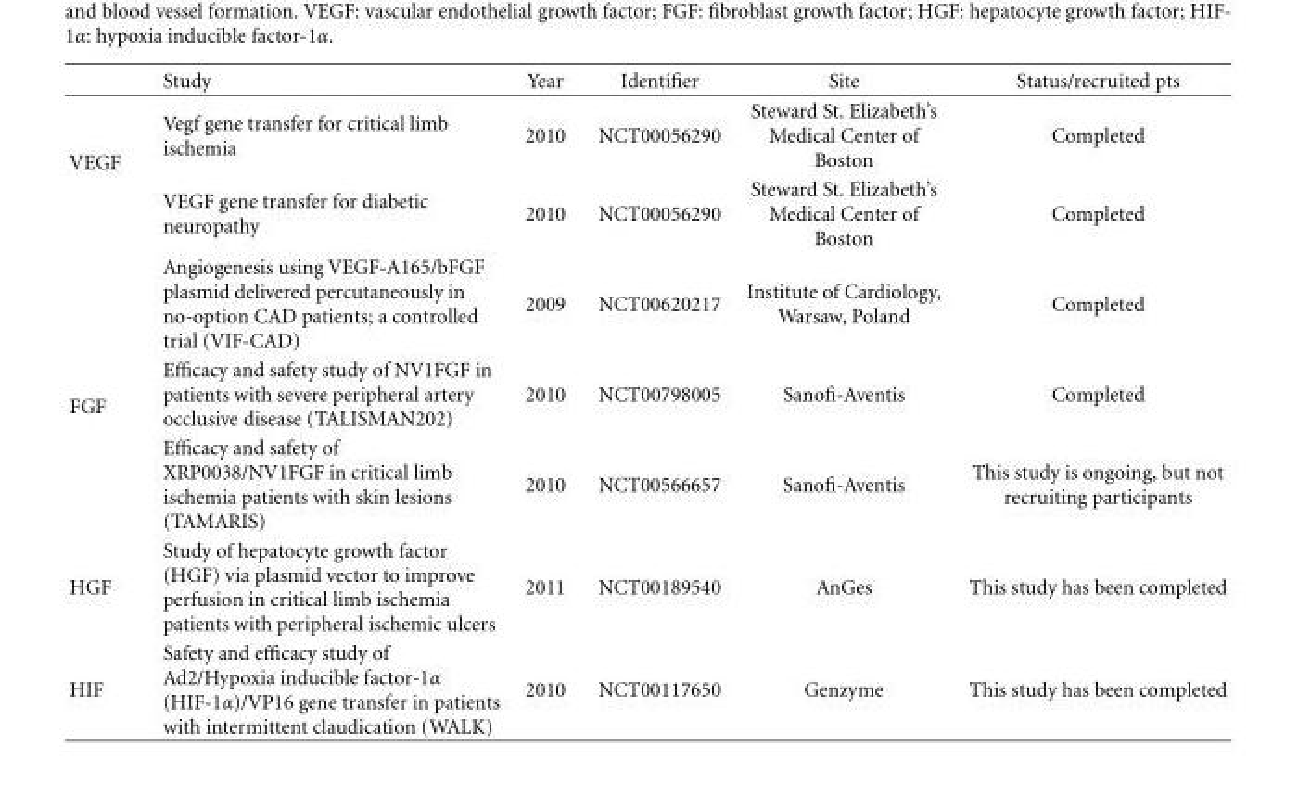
<table><thead><tr><td></td><td>Study</td><td>Year</td><td>Identifier</td><td>Site</td><td>Status/recruited pts</td></tr></thead><tbody><tr><td rowspan="3">VEGF</td><td>Vegf gene transfer for critical limb ischemia</td><td>2010</td><td>NCT00056290</td><td>Steward St. Elizabeth’s Medical Center of Boston</td><td>Completed</td></tr><tr><td>VEGF gene transfer for diabetic neuropathy</td><td>2010</td><td>NCT00056290</td><td>Steward St. Elizabeth’s Medical Center of Boston</td><td>Completed</td></tr><tr><td>Angiogenesis using VEGF-A165/bFGF plasmid delivered percutaneously in no-option CAD patients; a controlled trial (VIF-CAD)</td><td>2009</td><td>NCT00620217</td><td>Institute of Cardiology, Warsaw, Poland</td><td>Completed</td></tr><tr><td rowspan="2">FGF</td><td>Efficacy and safety study of NV1FGF in patients with severe peripheral artery occlusive disease (TALISMAN202)</td><td>2010</td><td>NCT00798005</td><td>Sanofi-Aventis</td><td>Completed</td></tr><tr><td>Efficacy and safety of XRP0038/NV1FGF in critical limb ischemia patients with skin lesions (TAMARIS)</td><td>2010</td><td>NCT00566657</td><td>Sanofi-Aventis</td><td>This study is ongoing, but not recruiting participants</td></tr><tr><td>HGF</td><td>Study of hepatocyte growth factor (HGF) via plasmid vector to improve perfusion in critical limb ischemia patients with peripheral ischemic ulcers</td><td>2011</td><td>NCT00189540</td><td>AnGes</td><td>This study has been completed</td></tr><tr><td>HIF</td><td>Safety and efficacy study of Ad2/Hypoxia inducible factor-1α (HIF-1α)/VP16 gene transfer in patients with intermittent claudication (WALK)</td><td>2010</td><td>NCT00117650</td><td>Genzyme</td><td>This study has been completed</td></tr></tbody></table>